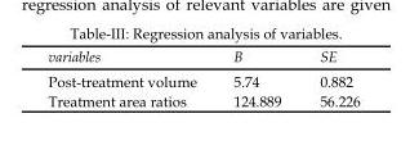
<table><thead><tr><td>variables</td><td>B</td><td>SE</td></tr></thead><tbody><tr><td>Post-treatment volume</td><td>5.74</td><td>0.882</td></tr><tr><td>Treatment area ratios</td><td>124.889</td><td>56.226</td></tr></tbody></table>